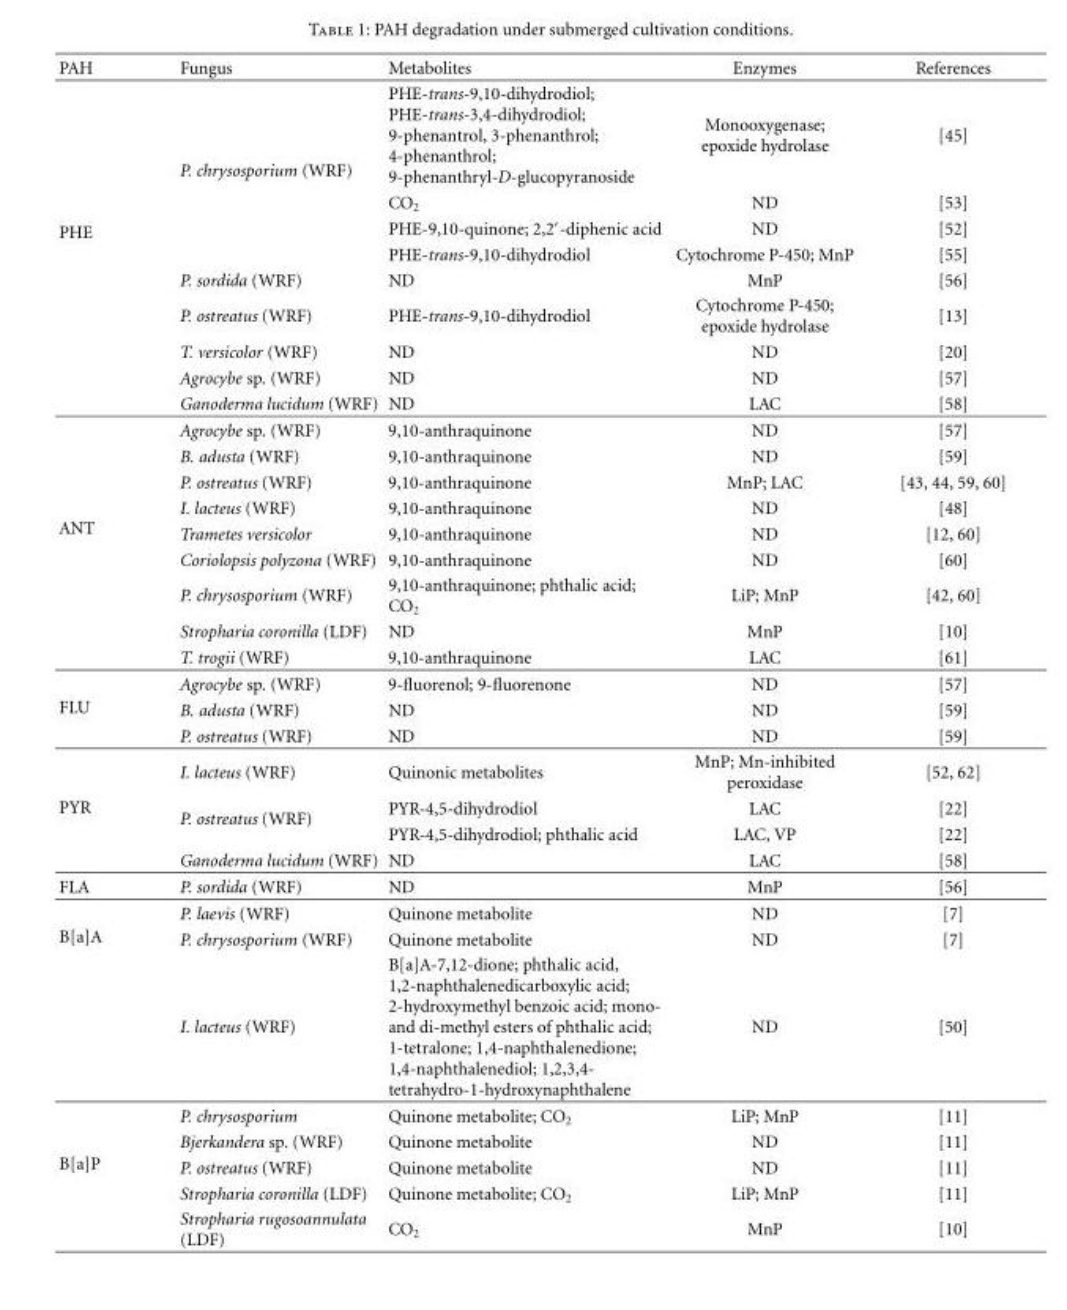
<table><thead><tr><td>PAH</td><td>Fungus</td><td>Metabolites</td><td>Enzymes</td><td>References</td></tr></thead><tbody><tr><td rowspan="9">PHE</td><td rowspan="4">P. chrysosporium (WRF)</td><td>PHE-trans-9,10-dihydrodiol; PHE-trans-3,4-dihydrodiol; 9-phenantrol, 3-phenanthrol; 4-phenanthrol; 9-phenanthryl-D-glucopyranoside</td><td>Monooxygenase; epoxide hydrolase</td><td>[45]</td></tr><tr><td>CO<sub>2</sub></td><td>ND</td><td>[53]</td></tr><tr><td>PHE-9,10-quinone; 2,2′-diphenic acid</td><td>ND</td><td>[52]</td></tr><tr><td>PHE-trans-9,10-dihydrodiol</td><td>Cytochrome P-450; MnP</td><td>[55]</td></tr><tr><td>P. sordida (WRF)</td><td>ND</td><td>MnP</td><td>[56]</td></tr><tr><td>P. ostreatus (WRF)</td><td>PHE-trans-9,10-dihydrodiol</td><td>Cytochrome P-450; epoxide hydrolase</td><td>[13]</td></tr><tr><td>T. versicolor (WRF)</td><td>ND</td><td>ND</td><td>[20]</td></tr><tr><td>Agrocybe sp. (WRF)</td><td>ND</td><td>ND</td><td>[57]</td></tr><tr><td>Ganoderma lucidum (WRF)</td><td>ND</td><td>LAC</td><td>[58]</td></tr><tr><td rowspan="9">ANT</td><td>Agrocybe sp. (WRF)</td><td>9,10-anthraquinone</td><td>ND</td><td>[57]</td></tr><tr><td>B. adusta (WRF)</td><td>9,10-anthraquinone</td><td>ND</td><td>[59]</td></tr><tr><td>P. ostreatus (WRF)</td><td>9,10-anthraquinone</td><td>MnP; LAC</td><td>[43, 44, 59, 60]</td></tr><tr><td>I. lacteus (WRF)</td><td>9,10-anthraquinone</td><td>ND</td><td>[48]</td></tr><tr><td>Trametes versicolor</td><td>9,10-anthraquinone</td><td>ND</td><td>[12, 60]</td></tr><tr><td>Coriolopsis polyzona (WRF)</td><td>9,10-anthraquinone</td><td>ND</td><td>[60]</td></tr><tr><td>P. chrysosporium (WRF)</td><td>9,10-anthraquinone; phthalic acid; CO<sub>2</sub></td><td>LiP; MnP</td><td>[42, 60]</td></tr><tr><td>Stropharia coronilla (LDF)</td><td>ND</td><td>MnP</td><td>[10]</td></tr><tr><td>T. trogii (WRF)</td><td>9,10-anthraquinone</td><td>LAC</td><td>[61]</td></tr><tr><td rowspan="3">FLU</td><td>Agrocybe sp. (WRF)</td><td>9-fluorenol; 9-fluorenone</td><td>ND</td><td>[57]</td></tr><tr><td>B. adusta (WRF)</td><td>ND</td><td>ND</td><td>[59]</td></tr><tr><td>P. ostreatus (WRF)</td><td>ND</td><td>ND</td><td>[59]</td></tr><tr><td rowspan="4">PYR</td><td>I. lacteus (WRF)</td><td>Quinonic metabolites</td><td>MnP; Mn-inhibited peroxidase</td><td>[52, 62]</td></tr><tr><td rowspan="2">P. ostreatus (WRF)</td><td>PYR-4,5-dihydrodiol</td><td>LAC</td><td>[22]</td></tr><tr><td>PYR-4,5-dihydrodiol; phthalic acid</td><td>LAC, VP</td><td>[22]</td></tr><tr><td>Ganoderma lucidum (WRF)</td><td>ND</td><td>LAC</td><td>[58]</td></tr><tr><td>FLA</td><td>P. sordida (WRF)</td><td>ND</td><td>MnP</td><td>[56]</td></tr><tr><td rowspan="3">B[a]A</td><td>P. laevis (WRF)</td><td>Quinone metabolite</td><td>ND</td><td>[7]</td></tr><tr><td>P. chrysosporium (WRF)</td><td>Quinone metabolite</td><td>ND</td><td>[7]</td></tr><tr><td>I. lacteus (WRF)</td><td>B[a]A-7,12-dione; phthalic acid, 1,2-naphthalenedicarboxylic acid; 2-hydroxymethyl benzoic acid; mono- and di-methyl esters of phthalic acid; 1-tetralone; 1,4-naphthalenedione; 1,4-naphthalenediol; 1,2,3,4- tetrahydro-1-hydroxynaphthalene</td><td>ND</td><td>[50]</td></tr><tr><td rowspan="5">B[a]P</td><td>P. chrysosporium</td><td>Quinone metabolite; CO<sub>2</sub></td><td>LiP; MnP</td><td>[11]</td></tr><tr><td>Bjerkandera sp. (WRF)</td><td>Quinone metabolite</td><td>ND</td><td>[11]</td></tr><tr><td>P. ostreatus (WRF)</td><td>Quinone metabolite</td><td>ND</td><td>[11]</td></tr><tr><td>Stropharia coronilla (LDF)</td><td>Quinone metabolite; CO<sub>2</sub></td><td>LiP; MnP</td><td>[11]</td></tr><tr><td>Stropharia rugosoannulata (LDF)</td><td>CO<sub>2</sub></td><td>MnP</td><td>[10]</td></tr></tbody></table>